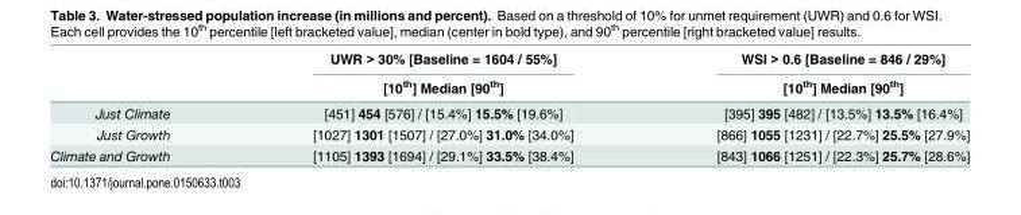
<table><thead><tr><td rowspan="2"></td><td rowspan="2">UWR &gt; 30% [Baseline = 1604 / 55%] [10<sup>th</sup>] Median [90<sup>th</sup>]</td><td rowspan="2">WSI &gt; 0.6 [Baseline = 846 / 29%] [10<sup>th</sup>] Median [90<sup>th</sup>]</td></tr><tr></tr></thead><tbody><tr><td>Just Climate</td><td>[451] 454 [576] / [15.4%] 15.5% [19.6%]</td><td>[395] 395 [482] / [13.5%] 13.5% [16.4%]</td></tr><tr><td>Just Growth</td><td>[1027] 1301 [1507] / [27.0%] 31.0% [34.0%]</td><td>[866] 1055 [1231] / [22.7%] 25.5% [27.9%]</td></tr><tr><td>Climate and Growth</td><td>[1105] 1393 [1694] / [29.1%] 33.5% [38.4%]</td><td>[843] 1066 [1251] / [22.3%] 25.7% [28.6%]</td></tr></tbody></table>